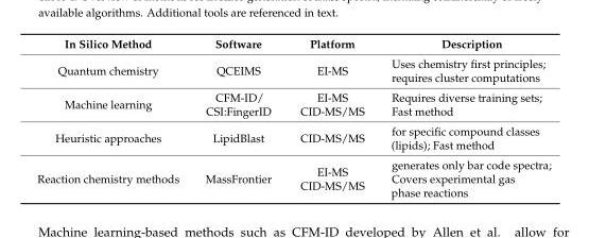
<table><thead><tr><td>In Silico Method</td><td>Software</td><td>Platform</td><td>Description</td></tr></thead><tbody><tr><td>Quantum chemistry</td><td>QCEIMS</td><td>EI-MS</td><td>Uses chemistry first principles; requires cluster computations</td></tr><tr><td>Machine learning</td><td>CFM-ID/ CSI:FingerID</td><td>EI-MS CID-MS/MS</td><td>Requires diverse training sets; Fast method</td></tr><tr><td>Heuristic approaches</td><td>LipidBlast</td><td>CID-MS/MS</td><td>for specific compound classes (lipids); Fast method</td></tr><tr><td>Reaction chemistry methods</td><td>MassFrontier</td><td>EI-MS CID-MS/MS</td><td>generates only bar code spectra; Covers experimental gas phase reactions</td></tr></tbody></table>